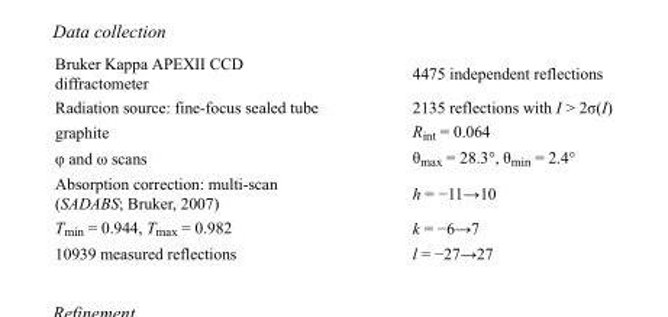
<table><tbody><tr><td>Bruker Kappa APEXII CCD diffractometer</td><td>4475 independent reflections</td></tr><tr><td>Radiation source: fine-focus sealed tube</td><td>2135 reflections with I &gt; 2σ(I)</td></tr><tr><td>graphite</td><td>R<sub>int</sub> = 0.064</td></tr><tr><td>φ and ω scans</td><td>θ<sub>max</sub> = 28.3°, θ<sub>min</sub> = 2.4°</td></tr><tr><td>Absorption correction: multi-scan (SADABS; Bruker, 2007)</td><td>h = −11→10</td></tr><tr><td>T<sub>min</sub> = 0.944, T<sub>max</sub> = 0.982</td><td>k = −6→7</td></tr><tr><td>10939 measured reflections</td><td>l = −27→27</td></tr></tbody></table>